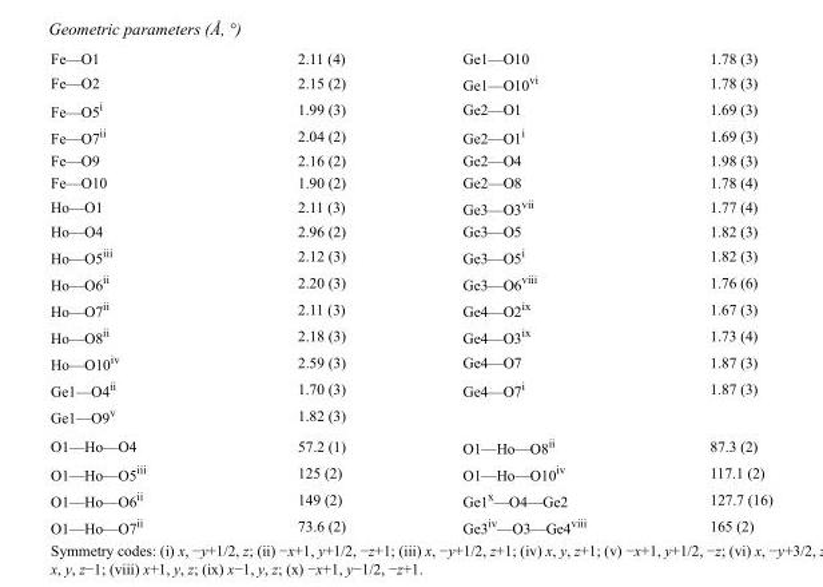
<table><tbody><tr><td>Fe—O1</td><td>2.11 (4)</td><td>Ge1—O10</td><td>1.78 (3)</td></tr><tr><td>Fe—O2</td><td>2.15 (2)</td><td>Ge1—O10<sup>vi</sup></td><td>1.78 (3)</td></tr><tr><td>Fe—O5<sup>i</sup></td><td>1.99 (3)</td><td>Ge2—O1</td><td>1.69 (3)</td></tr><tr><td>Fe—O7<sup>ii</sup></td><td>2.04 (2)</td><td>Ge2—O1<sup>i</sup></td><td>1.69 (3)</td></tr><tr><td>Fe—O9</td><td>2.16 (2)</td><td>Ge2—O4</td><td>1.98 (3)</td></tr><tr><td>Fe—O10</td><td>1.90 (2)</td><td>Ge2—O8</td><td>1.78 (4)</td></tr><tr><td>Ho—O1</td><td>2.11 (3)</td><td>Ge3—O3<sup>vii</sup></td><td>1.77 (4)</td></tr><tr><td>Ho—O4</td><td>2.96 (2)</td><td>Ge3—O5</td><td>1.82 (3)</td></tr><tr><td>Ho—O5<sup>iii</sup></td><td>2.12 (3)</td><td>Ge3—O5<sup>i</sup></td><td>1.82 (3)</td></tr><tr><td>Ho—O6<sup>ii</sup></td><td>2.20 (3)</td><td>Ge3—O6<sup>viii</sup></td><td>1.76 (6)</td></tr><tr><td>Ho—O7<sup>ii</sup></td><td>2.11 (3)</td><td>Ge4—O2<sup>ix</sup></td><td>1.67 (3)</td></tr><tr><td>Ho—O8<sup>ii</sup></td><td>2.18 (3)</td><td>Ge4—O3<sup>ix</sup></td><td>1.73 (4)</td></tr><tr><td>Ho—O10<sup>iv</sup></td><td>2.59 (3)</td><td>Ge4—O7</td><td>1.87 (3)</td></tr><tr><td>Ge1—O4<sup>ii</sup></td><td>1.70 (3)</td><td>Ge4—O7<sup>i</sup></td><td>1.87 (3)</td></tr><tr><td>Ge1—O9<sup>v</sup></td><td>1.82 (3)</td><td></td><td></td></tr><tr><td>O1—Ho—O4</td><td>57.2 (1)</td><td>O1—Ho—O8<sup>ii</sup></td><td>87.3 (2)</td></tr><tr><td>O1—Ho—O5<sup>iii</sup></td><td>125 (2)</td><td>O1—Ho—O10<sup>iv</sup></td><td>117.1 (2)</td></tr><tr><td>O1—Ho—O6<sup>ii</sup></td><td>149 (2)</td><td>Ge1<sup>x</sup>—O4—Ge2</td><td>127.7 (16)</td></tr><tr><td>O1—Ho—O7<sup>ii</sup></td><td>73.6 (2)</td><td>Ge3<sup>iv</sup>—O3—Ge4<sup>viii</sup></td><td>165 (2)</td></tr></tbody></table>